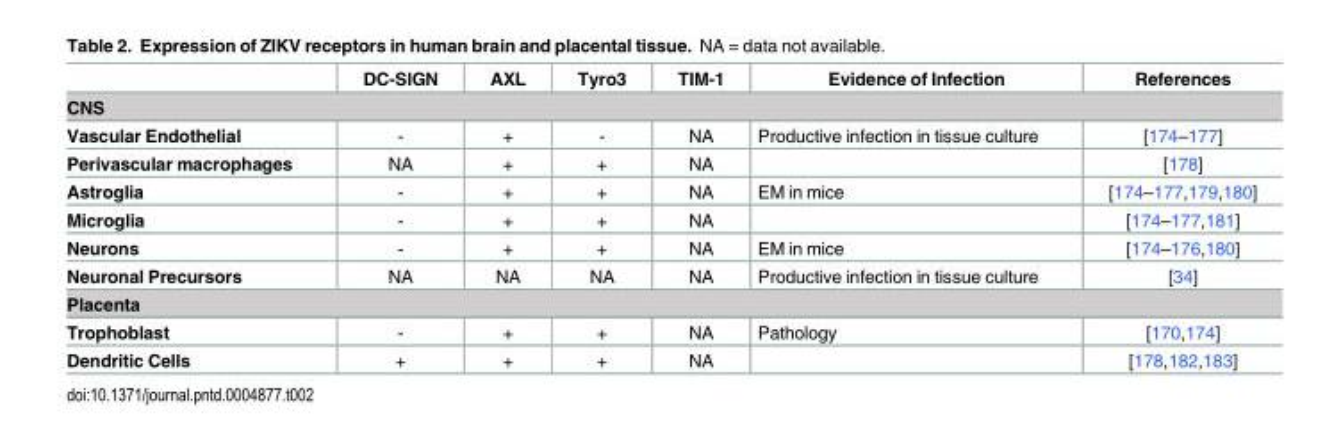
<table><thead><tr><td></td><td>DC-SIGN</td><td>AXL</td><td>Tyro3</td><td>TIM-1</td><td>Evidence of Infection</td><td>References</td></tr></thead><tbody><tr><td colspan="7">CNS</td></tr><tr><td>Vascular Endothelial</td><td>-</td><td>+</td><td>-</td><td>NA</td><td>Productive infection in tissue culture</td><td>[174–177]</td></tr><tr><td>Perivascular macrophages</td><td>NA</td><td>+</td><td>+</td><td>NA</td><td></td><td>[178]</td></tr><tr><td>Astroglia</td><td>-</td><td>+</td><td>+</td><td>NA</td><td>EM in mice</td><td>[174–177,179,180]</td></tr><tr><td>Microglia</td><td>-</td><td>+</td><td>+</td><td>NA</td><td></td><td>[174–177,181]</td></tr><tr><td>Neurons</td><td>-</td><td>+</td><td>+</td><td>NA</td><td>EM in mice</td><td>[174–176,180]</td></tr><tr><td>Neuronal Precursors</td><td>NA</td><td>NA</td><td>NA</td><td>NA</td><td>Productive infection in tissue culture</td><td>[34]</td></tr><tr><td colspan="7">Placenta</td></tr><tr><td>Trophoblast</td><td>-</td><td>+</td><td>+</td><td>NA</td><td>Pathology</td><td>[170,174]</td></tr><tr><td>Dendritic Cells</td><td>+</td><td>+</td><td>+</td><td>NA</td><td></td><td>[178,182,183]</td></tr></tbody></table>